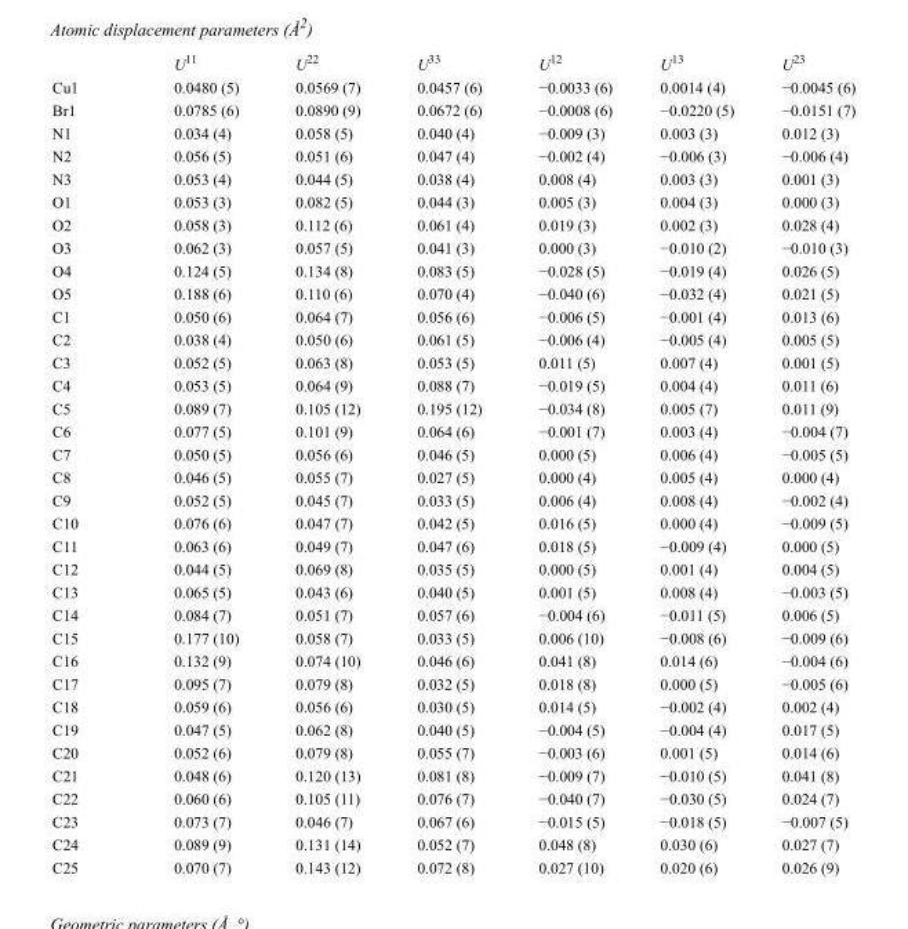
<table><thead><tr><td></td><td>U<sup>11</sup></td><td>U<sup>22</sup></td><td>U<sup>33</sup></td><td>U<sup>12</sup></td><td>U<sup>13</sup></td><td>U<sup>23</sup></td></tr></thead><tbody><tr><td>Cu1</td><td>0.0480 (5)</td><td>0.0569 (7)</td><td>0.0457 (6)</td><td>−0.0033 (6)</td><td>0.0014 (4)</td><td>−0.0045 (6)</td></tr><tr><td>Br1</td><td>0.0785 (6)</td><td>0.0890 (9)</td><td>0.0672 (6)</td><td>−0.0008 (6)</td><td>−0.0220 (5)</td><td>−0.0151 (7)</td></tr><tr><td>N1</td><td>0.034 (4)</td><td>0.058 (5)</td><td>0.040 (4)</td><td>−0.009 (3)</td><td>0.003 (3)</td><td>0.012 (3)</td></tr><tr><td>N2</td><td>0.056 (5)</td><td>0.051 (6)</td><td>0.047 (4)</td><td>−0.002 (4)</td><td>−0.006 (3)</td><td>−0.006 (4)</td></tr><tr><td>N3</td><td>0.053 (4)</td><td>0.044 (5)</td><td>0.038 (4)</td><td>0.008 (4)</td><td>0.003 (3)</td><td>0.001 (3)</td></tr><tr><td>O1</td><td>0.053 (3)</td><td>0.082 (5)</td><td>0.044 (3)</td><td>0.005 (3)</td><td>0.004 (3)</td><td>0.000 (3)</td></tr><tr><td>O2</td><td>0.058 (3)</td><td>0.112 (6)</td><td>0.061 (4)</td><td>0.019 (3)</td><td>0.002 (3)</td><td>0.028 (4)</td></tr><tr><td>O3</td><td>0.062 (3)</td><td>0.057 (5)</td><td>0.041 (3)</td><td>0.000 (3)</td><td>−0.010 (2)</td><td>−0.010 (3)</td></tr><tr><td>O4</td><td>0.124 (5)</td><td>0.134 (8)</td><td>0.083 (5)</td><td>−0.028 (5)</td><td>−0.019 (4)</td><td>0.026 (5)</td></tr><tr><td>O5</td><td>0.188 (6)</td><td>0.110 (6)</td><td>0.070 (4)</td><td>−0.040 (6)</td><td>−0.032 (4)</td><td>0.021 (5)</td></tr><tr><td>C1</td><td>0.050 (6)</td><td>0.064 (7)</td><td>0.056 (6)</td><td>−0.006 (5)</td><td>−0.001 (4)</td><td>0.013 (6)</td></tr><tr><td>C2</td><td>0.038 (4)</td><td>0.050 (6)</td><td>0.061 (5)</td><td>−0.006 (4)</td><td>−0.005 (4)</td><td>0.005 (5)</td></tr><tr><td>C3</td><td>0.052 (5)</td><td>0.063 (8)</td><td>0.053 (5)</td><td>0.011 (5)</td><td>0.007 (4)</td><td>0.001 (5)</td></tr><tr><td>C4</td><td>0.053 (5)</td><td>0.064 (9)</td><td>0.088 (7)</td><td>−0.019 (5)</td><td>0.004 (4)</td><td>0.011 (6)</td></tr><tr><td>C5</td><td>0.089 (7)</td><td>0.105 (12)</td><td>0.195 (12)</td><td>−0.034 (8)</td><td>0.005 (7)</td><td>0.011 (9)</td></tr><tr><td>C6</td><td>0.077 (5)</td><td>0.101 (9)</td><td>0.064 (6)</td><td>−0.001 (7)</td><td>0.003 (4)</td><td>−0.004 (7)</td></tr><tr><td>C7</td><td>0.050 (5)</td><td>0.056 (6)</td><td>0.046 (5)</td><td>0.000 (5)</td><td>0.006 (4)</td><td>−0.005 (5)</td></tr><tr><td>C8</td><td>0.046 (5)</td><td>0.055 (7)</td><td>0.027 (5)</td><td>0.000 (4)</td><td>0.005 (4)</td><td>0.000 (4)</td></tr><tr><td>C9</td><td>0.052 (5)</td><td>0.045 (7)</td><td>0.033 (5)</td><td>0.006 (4)</td><td>0.008 (4)</td><td>−0.002 (4)</td></tr><tr><td>C10</td><td>0.076 (6)</td><td>0.047 (7)</td><td>0.042 (5)</td><td>0.016 (5)</td><td>0.000 (4)</td><td>−0.009 (5)</td></tr><tr><td>C11</td><td>0.063 (6)</td><td>0.049 (7)</td><td>0.047 (6)</td><td>0.018 (5)</td><td>−0.009 (4)</td><td>0.000 (5)</td></tr><tr><td>C12</td><td>0.044 (5)</td><td>0.069 (8)</td><td>0.035 (5)</td><td>0.000 (5)</td><td>0.001 (4)</td><td>0.004 (5)</td></tr><tr><td>C13</td><td>0.065 (5)</td><td>0.043 (6)</td><td>0.040 (5)</td><td>0.001 (5)</td><td>0.008 (4)</td><td>−0.003 (5)</td></tr><tr><td>C14</td><td>0.084 (7)</td><td>0.051 (7)</td><td>0.057 (6)</td><td>−0.004 (6)</td><td>−0.011 (5)</td><td>0.006 (5)</td></tr><tr><td>C15</td><td>0.177 (10)</td><td>0.058 (7)</td><td>0.033 (5)</td><td>0.006 (10)</td><td>−0.008 (6)</td><td>−0.009 (6)</td></tr><tr><td>C16</td><td>0.132 (9)</td><td>0.074 (10)</td><td>0.046 (6)</td><td>0.041 (8)</td><td>0.014 (6)</td><td>−0.004 (6)</td></tr><tr><td>C17</td><td>0.095 (7)</td><td>0.079 (8)</td><td>0.032 (5)</td><td>0.018 (8)</td><td>0.000 (5)</td><td>−0.005 (6)</td></tr><tr><td>C18</td><td>0.059 (6)</td><td>0.056 (6)</td><td>0.030 (5)</td><td>0.014 (5)</td><td>−0.002 (4)</td><td>0.002 (4)</td></tr><tr><td>C19</td><td>0.047 (5)</td><td>0.062 (8)</td><td>0.040 (5)</td><td>−0.004 (5)</td><td>−0.004 (4)</td><td>0.017 (5)</td></tr><tr><td>C20</td><td>0.052 (6)</td><td>0.079 (8)</td><td>0.055 (7)</td><td>−0.003 (6)</td><td>0.001 (5)</td><td>0.014 (6)</td></tr><tr><td>C21</td><td>0.048 (6)</td><td>0.120 (13)</td><td>0.081 (8)</td><td>−0.009 (7)</td><td>−0.010 (5)</td><td>0.041 (8)</td></tr><tr><td>C22</td><td>0.060 (6)</td><td>0.105 (11)</td><td>0.076 (7)</td><td>−0.040 (7)</td><td>−0.030 (5)</td><td>0.024 (7)</td></tr><tr><td>C23</td><td>0.073 (7)</td><td>0.046 (7)</td><td>0.067 (6)</td><td>−0.015 (5)</td><td>−0.018 (5)</td><td>−0.007 (5)</td></tr><tr><td>C24</td><td>0.089 (9)</td><td>0.131 (14)</td><td>0.052 (7)</td><td>0.048 (8)</td><td>0.030 (6)</td><td>0.027 (7)</td></tr><tr><td>C25</td><td>0.070 (7)</td><td>0.143 (12)</td><td>0.072 (8)</td><td>0.027 (10)</td><td>0.020 (6)</td><td>0.026 (9)</td></tr></tbody></table>